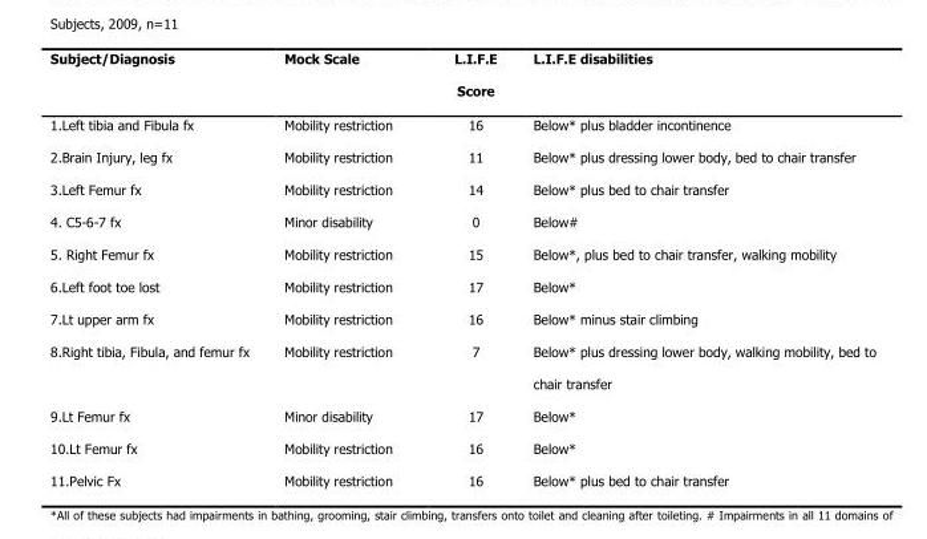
<table><thead><tr><td>Subject/Diagnosis</td><td>Mock Scale</td><td>L.I.F.E Score</td><td>L.I.F.E disabilities</td></tr></thead><tbody><tr><td>1.Left tibia and Fibula fx</td><td>Mobility restriction</td><td>16</td><td>Below* plus bladder incontinence</td></tr><tr><td>2.Brain Injury, leg fx</td><td>Mobility restriction</td><td>11</td><td>Below* plus dressing lower body, bed to chair transfer</td></tr><tr><td>3.Left Femur fx</td><td>Mobility restriction</td><td>14</td><td>Below* plus bed to chair transfer</td></tr><tr><td>4. C5-6-7 fx</td><td>Minor disability</td><td>0</td><td>Below#</td></tr><tr><td>5. Right Femur fx</td><td>Mobility restriction</td><td>15</td><td>Below*, plus bed to chair transfer, walking mobility</td></tr><tr><td>6.Left foot toe lost</td><td>Mobility restriction</td><td>17</td><td>Below*</td></tr><tr><td>7.Lt upper arm fx</td><td>Mobility restriction</td><td>16</td><td>Below* minus stair climbing</td></tr><tr><td>8.Right tibia, Fibula, and femur fx</td><td>Mobility restriction</td><td>7</td><td>Below* plus dressing lower body, walking mobility, bed to chair transfer</td></tr><tr><td>9.Lt Femur fx</td><td>Minor disability</td><td>17</td><td>Below*</td></tr><tr><td>10.Lt Femur fx</td><td>Mobility restriction</td><td>16</td><td>Below*</td></tr><tr><td>11.Pelvic Fx</td><td>Mobility restriction</td><td>16</td><td>Below* plus bed to chair transfer</td></tr></tbody></table>